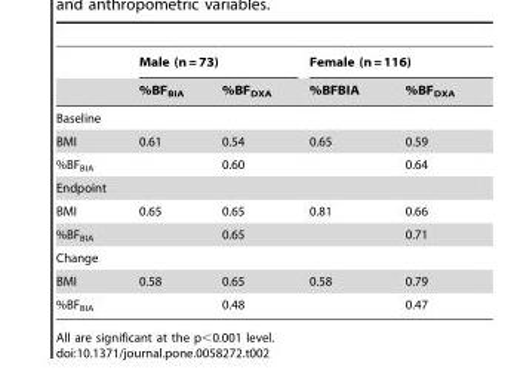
<table><thead><tr><td rowspan="2"></td><td colspan="2">Male (n = 73)</td><td colspan="2">Female (n = 116)</td></tr><tr><td>%BF<sub>BIA</sub></td><td>%BF<sub>DXA</sub></td><td>%BFBIA</td><td>%BF<sub>DXA</sub></td></tr></thead><tbody><tr><td colspan="5">Baseline</td></tr><tr><td>BMI</td><td>0.61</td><td>0.54</td><td>0.65</td><td>0.59</td></tr><tr><td>%BF<sub>BIA</sub></td><td></td><td>0.60</td><td></td><td>0.64</td></tr><tr><td colspan="5">Endpoint</td></tr><tr><td>BMI</td><td>0.65</td><td>0.65</td><td>0.81</td><td>0.66</td></tr><tr><td>%BF<sub>BIA</sub></td><td></td><td>0.65</td><td></td><td>0.71</td></tr><tr><td colspan="5">Change</td></tr><tr><td>BMI</td><td>0.58</td><td>0.65</td><td>0.58</td><td>0.79</td></tr><tr><td>%BF<sub>BIA</sub></td><td></td><td>0.48</td><td></td><td>0.47</td></tr></tbody></table>